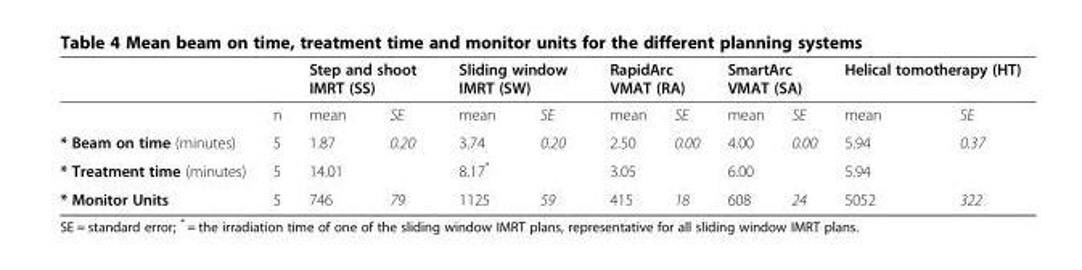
<table><thead><tr><td rowspan="2"></td><td rowspan="2">n</td><td colspan="2">Step and shoot IMRT (SS)</td><td colspan="2">Sliding window IMRT (SW)</td><td colspan="2">RapidArc VMAT (RA)</td><td colspan="2">SmartArc VMAT (SA)</td><td colspan="2">Helical tomotherapy (HT)</td></tr><tr><td>mean</td><td>SE</td><td>mean</td><td>SE</td><td>mean</td><td>SE</td><td>mean</td><td>SE</td><td>mean</td><td>SE</td></tr></thead><tbody><tr><td>* Beam on time (minutes)</td><td>5</td><td>1.87</td><td>0.20</td><td>3.74</td><td>0.20</td><td>2.50</td><td>0.00</td><td>4.00</td><td>0.00</td><td>5.94</td><td>0.37</td></tr><tr><td>* Treatment time (minutes)</td><td>5</td><td>14.01</td><td></td><td>8.17*</td><td></td><td>3.05</td><td></td><td>6.00</td><td></td><td>5.94</td><td></td></tr><tr><td>* Monitor Units</td><td>5</td><td>746</td><td>79</td><td>1125</td><td>59</td><td>415</td><td>18</td><td>608</td><td>24</td><td>5052</td><td>322</td></tr></tbody></table>